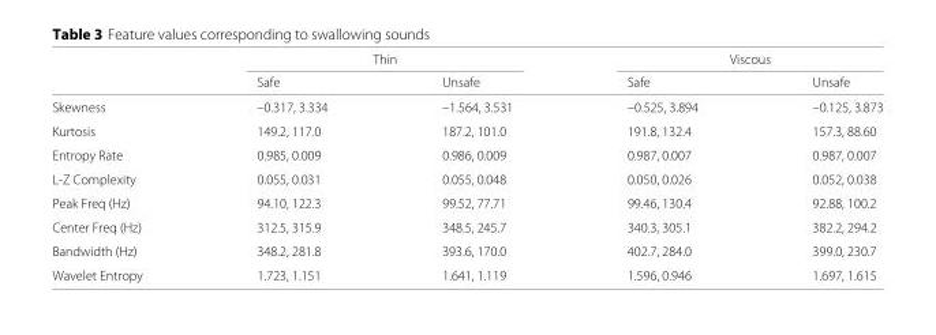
<table><thead><tr><td rowspan="2"></td><td colspan="2">Thin</td><td colspan="2">Viscous</td></tr><tr><td>Safe</td><td>Unsafe</td><td>Safe</td><td>Unsafe</td></tr></thead><tbody><tr><td>Skewness</td><td>–0.317, 3.334</td><td>–1.564, 3.531</td><td>–0.525, 3.894</td><td>–0.125, 3.873</td></tr><tr><td>Kurtosis</td><td>149.2, 117.0</td><td>187.2, 101.0</td><td>191.8, 132.4</td><td>157.3, 88.60</td></tr><tr><td>Entropy Rate</td><td>0.985, 0.009</td><td>0.986, 0.009</td><td>0.987, 0.007</td><td>0.987, 0.007</td></tr><tr><td>L-Z Complexity</td><td>0.055, 0.031</td><td>0.055, 0.048</td><td>0.050, 0.026</td><td>0.052, 0.038</td></tr><tr><td>Peak Freq (Hz)</td><td>94.10, 122.3</td><td>99.52, 77.71</td><td>99.46, 130.4</td><td>92.88, 100.2</td></tr><tr><td>Center Freq (Hz)</td><td>312.5, 315.9</td><td>348.5, 245.7</td><td>340.3, 305.1</td><td>382.2, 294.2</td></tr><tr><td>Bandwidth (Hz)</td><td>348.2, 281.8</td><td>393.6, 170.0</td><td>402.7, 284.0</td><td>399.0, 230.7</td></tr><tr><td>Wavelet Entropy</td><td>1.723, 1.151</td><td>1.641, 1.119</td><td>1.596, 0.946</td><td>1.697, 1.615</td></tr></tbody></table>